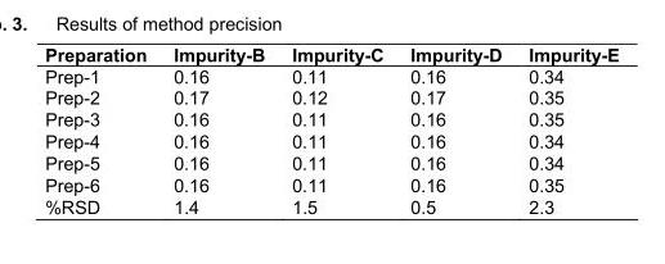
<table><thead><tr><td>Preparation</td><td>Impurity-B</td><td>Impurity-C</td><td>Impurity-D</td><td>Impurity-E</td></tr></thead><tbody><tr><td>Prep-1</td><td>0.16</td><td>0.11</td><td>0.16</td><td>0.34</td></tr><tr><td>Prep-2</td><td>0.17</td><td>0.12</td><td>0.17</td><td>0.35</td></tr><tr><td>Prep-3</td><td>0.16</td><td>0.11</td><td>0.16</td><td>0.35</td></tr><tr><td>Prep-4</td><td>0.16</td><td>0.11</td><td>0.16</td><td>0.34</td></tr><tr><td>Prep-5</td><td>0.16</td><td>0.11</td><td>0.16</td><td>0.34</td></tr><tr><td>Prep-6</td><td>0.16</td><td>0.11</td><td>0.16</td><td>0.35</td></tr><tr><td>%RSD</td><td>1.4</td><td>1.5</td><td>0.5</td><td>2.3</td></tr></tbody></table>